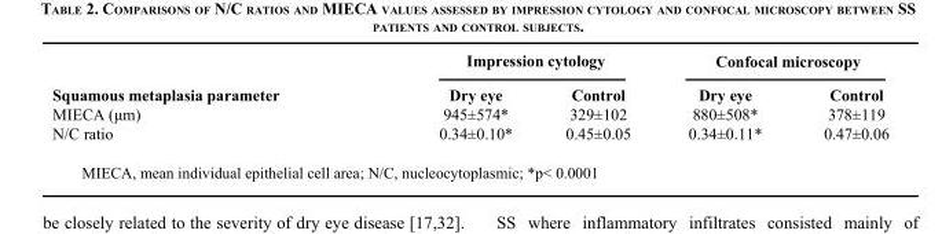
<table><thead><tr><td rowspan="2">Squamous metaplasia parameter</td><td colspan="2">Impression cytology</td><td colspan="2">Confocal microscopy</td></tr><tr><td>Dry eye</td><td>Control</td><td>Dry eye</td><td>Control</td></tr></thead><tbody><tr><td>MIECA (μm)</td><td>945±574*</td><td>329±102</td><td>880±508*</td><td>378±119</td></tr><tr><td>N/C ratio</td><td>0.34±0.10*</td><td>0.45±0.05</td><td>0.34±0.11*</td><td>0.47±0.06</td></tr><tr><td colspan="5">MIECA, mean individual epithelial cell area; N/C, nucleocytoplasmic; *p&lt; 0.0001</td></tr></tbody></table>